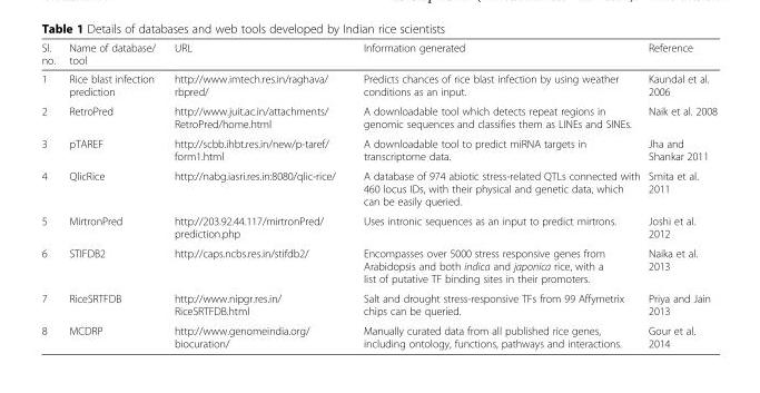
<table><thead><tr><td>Sl. no.</td><td>Name of database/ tool</td><td>URL</td><td>Information generated</td><td>Reference</td></tr></thead><tbody><tr><td>1</td><td>Rice blast infection prediction</td><td>http://www.imtech.res.in/raghava/ rbpred/</td><td>Predicts chances of rice blast infection by using weather conditions as an input.</td><td>Kaundal et al. 2006</td></tr><tr><td>2</td><td>RetroPred</td><td>http://www.juit.ac.in/attachments/ RetroPred/home.html</td><td>A downloadable tool which detects repeat regions in genomic sequences and classifies them as LINEs and SINEs.</td><td>Naik et al. 2008</td></tr><tr><td>3</td><td>pTAREF</td><td>http://scbb.ihbt.res.in/new/p-taref/ form1.html</td><td>A downloadable tool to predict miRNA targets in transcriptome data.</td><td>Jha and Shankar 2011</td></tr><tr><td>4</td><td>QlicRice</td><td>http://nabg.iasri.res.in:8080/qlic-rice/</td><td>A database of 974 abiotic stress-related QTLs connected with 460 locus IDs, with their physical and genetic data, which can be easily queried.</td><td>Smita et al. 2011</td></tr><tr><td>5</td><td>MirtronPred</td><td>http://203.92.44.117/mirtronPred/ prediction.php</td><td>Uses intronic sequences as an input to predict mirtrons.</td><td>Joshi et al. 2012</td></tr><tr><td>6</td><td>STIFDB2</td><td>http://caps.ncbs.res.in/stifdb2/</td><td>Encompasses over 5000 stress responsive genes from Arabidopsis and both indica and japonica rice, with a list of putative TF binding sites in their promoters.</td><td>Naika et al. 2013</td></tr><tr><td>7</td><td>RiceSRTFDB</td><td>http://www.nipgr.res.in/ RiceSRTFDB.html</td><td>Salt and drought stress-responsive TFs from 99 Affymetrix chips can be queried.</td><td>Priya and Jain 2013</td></tr><tr><td>8</td><td>MCDRP</td><td>http://www.genomeindia.org/ biocuration/</td><td>Manually curated data from all published rice genes, including ontology, functions, pathways and interactions.</td><td>Gour et al. 2014</td></tr></tbody></table>